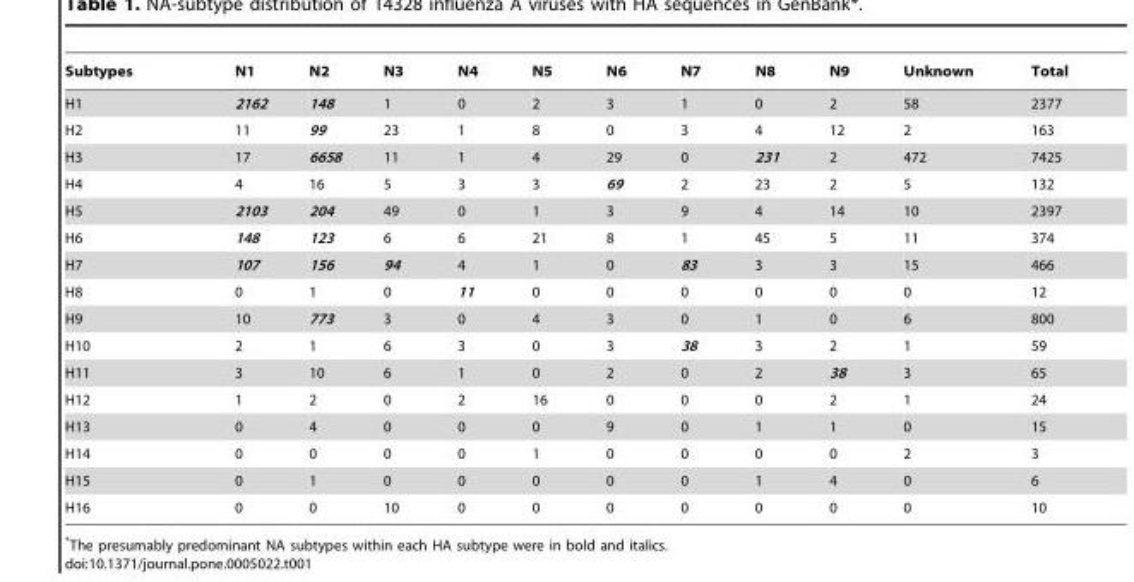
<table><thead><tr><td>Subtypes</td><td>N1</td><td>N2</td><td>N3</td><td>N4</td><td>N5</td><td>N6</td><td>N7</td><td>N8</td><td>N9</td><td>Unknown</td><td>Total</td></tr></thead><tbody><tr><td>H1</td><td>2162</td><td>148</td><td>1</td><td>0</td><td>2</td><td>3</td><td>1</td><td>0</td><td>2</td><td>58</td><td>2377</td></tr><tr><td>H2</td><td>11</td><td>99</td><td>23</td><td>1</td><td>8</td><td>0</td><td>3</td><td>4</td><td>12</td><td>2</td><td>163</td></tr><tr><td>H3</td><td>17</td><td>6658</td><td>11</td><td>1</td><td>4</td><td>29</td><td>0</td><td>231</td><td>2</td><td>472</td><td>7425</td></tr><tr><td>H4</td><td>4</td><td>16</td><td>5</td><td>3</td><td>3</td><td>69</td><td>2</td><td>23</td><td>2</td><td>5</td><td>132</td></tr><tr><td>H5</td><td>2103</td><td>204</td><td>49</td><td>0</td><td>1</td><td>3</td><td>9</td><td>4</td><td>14</td><td>10</td><td>2397</td></tr><tr><td>H6</td><td>148</td><td>123</td><td>6</td><td>6</td><td>21</td><td>8</td><td>1</td><td>45</td><td>5</td><td>11</td><td>374</td></tr><tr><td>H7</td><td>107</td><td>156</td><td>94</td><td>4</td><td>1</td><td>0</td><td>83</td><td>3</td><td>3</td><td>15</td><td>466</td></tr><tr><td>H8</td><td>0</td><td>1</td><td>0</td><td>11</td><td>0</td><td>0</td><td>0</td><td>0</td><td>0</td><td>0</td><td>12</td></tr><tr><td>H9</td><td>10</td><td>773</td><td>3</td><td>0</td><td>4</td><td>3</td><td>0</td><td>1</td><td>0</td><td>6</td><td>800</td></tr><tr><td>H10</td><td>2</td><td>1</td><td>6</td><td>3</td><td>0</td><td>3</td><td>38</td><td>3</td><td>2</td><td>1</td><td>59</td></tr><tr><td>H11</td><td>3</td><td>10</td><td>6</td><td>1</td><td>0</td><td>2</td><td>0</td><td>2</td><td>38</td><td>3</td><td>65</td></tr><tr><td>H12</td><td>1</td><td>2</td><td>0</td><td>2</td><td>16</td><td>0</td><td>0</td><td>0</td><td>2</td><td>1</td><td>24</td></tr><tr><td>H13</td><td>0</td><td>4</td><td>0</td><td>0</td><td>0</td><td>9</td><td>0</td><td>1</td><td>1</td><td>0</td><td>15</td></tr><tr><td>H14</td><td>0</td><td>0</td><td>0</td><td>0</td><td>1</td><td>0</td><td>0</td><td>0</td><td>0</td><td>2</td><td>3</td></tr><tr><td>H15</td><td>0</td><td>1</td><td>0</td><td>0</td><td>0</td><td>0</td><td>0</td><td>1</td><td>4</td><td>0</td><td>6</td></tr><tr><td>H16</td><td>0</td><td>0</td><td>10</td><td>0</td><td>0</td><td>0</td><td>0</td><td>0</td><td>0</td><td>0</td><td>10</td></tr></tbody></table>